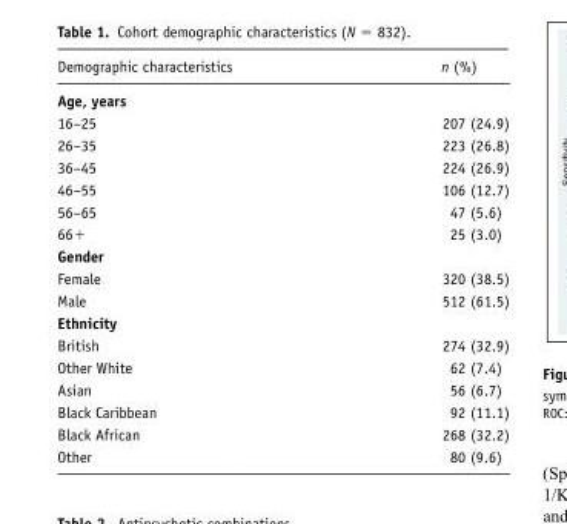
<table><thead><tr><td>Demographic characteristics</td><td>n (%)</td></tr></thead><tbody><tr><td colspan="2">Age, years</td></tr><tr><td>16–25</td><td>207 (24.9)</td></tr><tr><td>26–35</td><td>223 (26.8)</td></tr><tr><td>36–45</td><td>224 (26.9)</td></tr><tr><td>46–55</td><td>106 (12.7)</td></tr><tr><td>56–65</td><td>47 (5.6)</td></tr><tr><td>66+</td><td>25 (3.0)</td></tr><tr><td colspan="2">Gender</td></tr><tr><td>Female</td><td>320 (38.5)</td></tr><tr><td>Male</td><td>512 (61.5)</td></tr><tr><td colspan="2">Ethnicity</td></tr><tr><td>British</td><td>274 (32.9)</td></tr><tr><td>Other White</td><td>62 (7.4)</td></tr><tr><td>Asian</td><td>56 (6.7)</td></tr><tr><td>Black Caribbean</td><td>92 (11.1)</td></tr><tr><td>Black African</td><td>268 (32.2)</td></tr><tr><td>Other</td><td>80 (9.6)</td></tr></tbody></table>